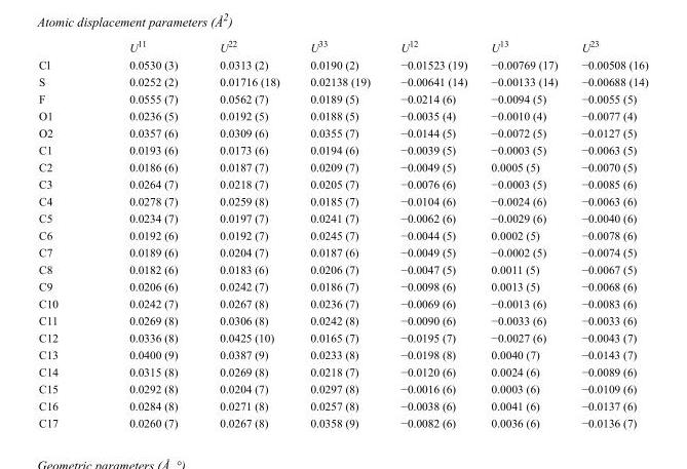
<table><thead><tr><td></td><td>U<sup>11</sup></td><td>U<sup>22</sup></td><td>U<sup>33</sup></td><td>U<sup>12</sup></td><td>U<sup>13</sup></td><td>U<sup>23</sup></td></tr></thead><tbody><tr><td>Cl</td><td>0.0530 (3)</td><td>0.0313 (2)</td><td>0.0190 (2)</td><td>−0.01523 (19)</td><td>−0.00769 (17)</td><td>−0.00508 (16)</td></tr><tr><td>S</td><td>0.0252 (2)</td><td>0.01716 (18)</td><td>0.02138 (19)</td><td>−0.00641 (14)</td><td>−0.00133 (14)</td><td>−0.00688 (14)</td></tr><tr><td>F</td><td>0.0555 (7)</td><td>0.0562 (7)</td><td>0.0189 (5)</td><td>−0.0214 (6)</td><td>−0.0094 (5)</td><td>−0.0055 (5)</td></tr><tr><td>O1</td><td>0.0236 (5)</td><td>0.0192 (5)</td><td>0.0188 (5)</td><td>−0.0035 (4)</td><td>−0.0010 (4)</td><td>−0.0077 (4)</td></tr><tr><td>O2</td><td>0.0357 (6)</td><td>0.0309 (6)</td><td>0.0355 (7)</td><td>−0.0144 (5)</td><td>−0.0072 (5)</td><td>−0.0127 (5)</td></tr><tr><td>C1</td><td>0.0193 (6)</td><td>0.0173 (6)</td><td>0.0194 (6)</td><td>−0.0039 (5)</td><td>−0.0003 (5)</td><td>−0.0063 (5)</td></tr><tr><td>C2</td><td>0.0186 (6)</td><td>0.0187 (7)</td><td>0.0209 (7)</td><td>−0.0049 (5)</td><td>0.0005 (5)</td><td>−0.0070 (5)</td></tr><tr><td>C3</td><td>0.0264 (7)</td><td>0.0218 (7)</td><td>0.0205 (7)</td><td>−0.0076 (6)</td><td>−0.0003 (5)</td><td>−0.0085 (6)</td></tr><tr><td>C4</td><td>0.0278 (7)</td><td>0.0259 (8)</td><td>0.0185 (7)</td><td>−0.0104 (6)</td><td>−0.0024 (6)</td><td>−0.0063 (6)</td></tr><tr><td>C5</td><td>0.0234 (7)</td><td>0.0197 (7)</td><td>0.0241 (7)</td><td>−0.0062 (6)</td><td>−0.0029 (6)</td><td>−0.0040 (6)</td></tr><tr><td>C6</td><td>0.0192 (6)</td><td>0.0192 (7)</td><td>0.0245 (7)</td><td>−0.0044 (5)</td><td>0.0002 (5)</td><td>−0.0078 (6)</td></tr><tr><td>C7</td><td>0.0189 (6)</td><td>0.0204 (7)</td><td>0.0187 (6)</td><td>−0.0049 (5)</td><td>−0.0002 (5)</td><td>−0.0074 (5)</td></tr><tr><td>C8</td><td>0.0182 (6)</td><td>0.0183 (6)</td><td>0.0206 (7)</td><td>−0.0047 (5)</td><td>0.0011 (5)</td><td>−0.0067 (5)</td></tr><tr><td>C9</td><td>0.0206 (6)</td><td>0.0242 (7)</td><td>0.0186 (7)</td><td>−0.0098 (6)</td><td>0.0013 (5)</td><td>−0.0068 (6)</td></tr><tr><td>C10</td><td>0.0242 (7)</td><td>0.0267 (8)</td><td>0.0236 (7)</td><td>−0.0069 (6)</td><td>−0.0013 (6)</td><td>−0.0083 (6)</td></tr><tr><td>C11</td><td>0.0269 (8)</td><td>0.0306 (8)</td><td>0.0242 (8)</td><td>−0.0090 (6)</td><td>−0.0033 (6)</td><td>−0.0033 (6)</td></tr><tr><td>C12</td><td>0.0336 (8)</td><td>0.0425 (10)</td><td>0.0165 (7)</td><td>−0.0195 (7)</td><td>−0.0027 (6)</td><td>−0.0043 (7)</td></tr><tr><td>C13</td><td>0.0400 (9)</td><td>0.0387 (9)</td><td>0.0233 (8)</td><td>−0.0198 (8)</td><td>0.0040 (7)</td><td>−0.0143 (7)</td></tr><tr><td>C14</td><td>0.0315 (8)</td><td>0.0269 (8)</td><td>0.0218 (7)</td><td>−0.0120 (6)</td><td>0.0024 (6)</td><td>−0.0089 (6)</td></tr><tr><td>C15</td><td>0.0292 (8)</td><td>0.0204 (7)</td><td>0.0297 (8)</td><td>−0.0016 (6)</td><td>0.0003 (6)</td><td>−0.0109 (6)</td></tr><tr><td>C16</td><td>0.0284 (8)</td><td>0.0271 (8)</td><td>0.0257 (8)</td><td>−0.0038 (6)</td><td>0.0041 (6)</td><td>−0.0137 (6)</td></tr><tr><td>C17</td><td>0.0260 (7)</td><td>0.0267 (8)</td><td>0.0358 (9)</td><td>−0.0082 (6)</td><td>0.0036 (6)</td><td>−0.0136 (7)</td></tr></tbody></table>